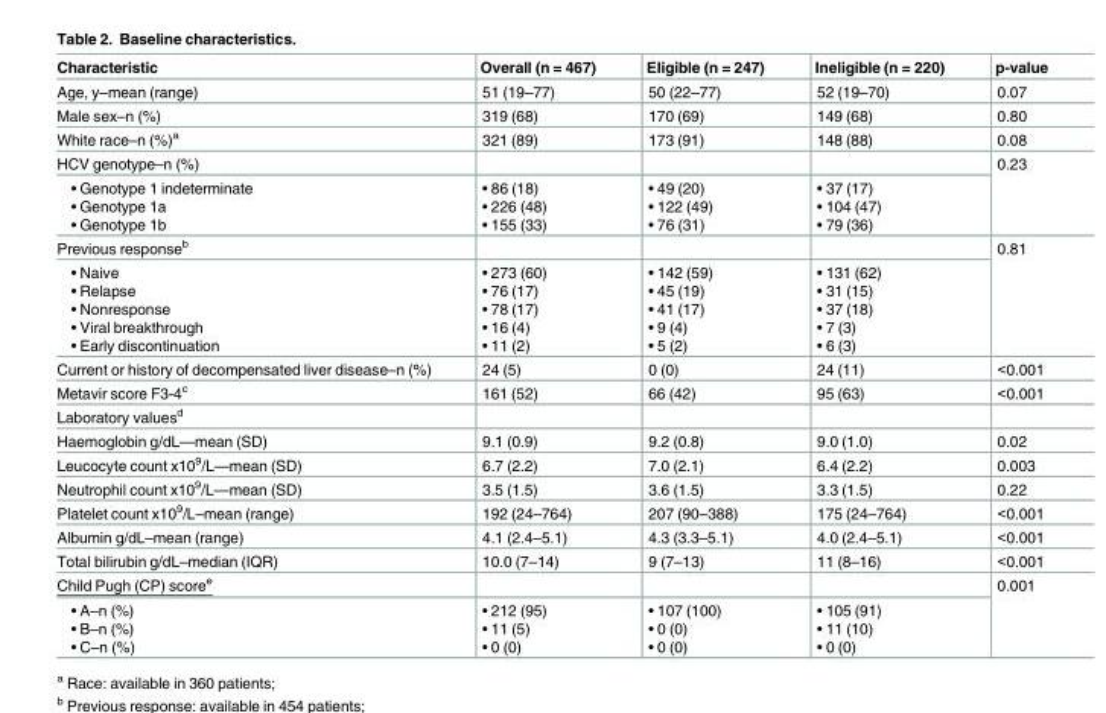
<table><thead><tr><td>Characteristic</td><td>Overall (n = 467)</td><td>Eligible (n = 247)</td><td>Ineligible (n = 220)</td><td>p-value</td></tr></thead><tbody><tr><td>Age, y–mean (range)</td><td>51 (19–77)</td><td>50 (22–77)</td><td>52 (19–70)</td><td>0.07</td></tr><tr><td>Male sex–n (%)</td><td>319 (68)</td><td>170 (69)</td><td>149 (68)</td><td>0.80</td></tr><tr><td>White race–n (%)<sup>a</sup></td><td>321 (89)</td><td>173 (91)</td><td>148 (88)</td><td>0.08</td></tr><tr><td colspan="4">HCV genotype–n (%)</td><td rowspan="2">0.23</td></tr><tr><td>• Genotype 1 indeterminate • Genotype 1a • Genotype 1b</td><td>• 86 (18) • 226 (48) • 155 (33)</td><td>• 49 (20) • 122 (49) • 76 (31)</td><td>• 37 (17) • 104 (47) • 79 (36)</td></tr><tr><td colspan="4">Previous response<sup>b</sup></td><td rowspan="2">0.81</td></tr><tr><td>• Naive • Relapse • Nonresponse • Viral breakthrough • Early discontinuation</td><td>• 273 (60) • 76 (17) • 78 (17) • 16 (4) • 11 (2)</td><td>• 142 (59) • 45 (19) • 41 (17) • 9 (4) • 5 (2)</td><td>• 131 (62) • 31 (15) • 37 (18) • 7 (3) • 6 (3)</td></tr><tr><td>Current or history of decompensated liver disease–n (%)</td><td>24 (5)</td><td>0 (0)</td><td>24 (11)</td><td>&lt;0.001</td></tr><tr><td>Metavir score F3-4<sup>c</sup></td><td>161 (52)</td><td>66 (42)</td><td>95 (63)</td><td>&lt;0.001</td></tr><tr><td colspan="5">Laboratory values<sup>d</sup></td></tr><tr><td>Haemoglobin g/dL—mean (SD)</td><td>9.1 (0.9)</td><td>9.2 (0.8)</td><td>9.0 (1.0)</td><td>0.02</td></tr><tr><td>Leucocyte count x10<sup>9</sup>/L—mean (SD)</td><td>6.7 (2.2)</td><td>7.0 (2.1)</td><td>6.4 (2.2)</td><td>0.003</td></tr><tr><td>Neutrophil count x10<sup>9</sup>/L—mean (SD)</td><td>3.5 (1.5)</td><td>3.6 (1.5)</td><td>3.3 (1.5)</td><td>0.22</td></tr><tr><td>Platelet count x10<sup>9</sup>/L–mean (range)</td><td>192 (24–764)</td><td>207 (90–388)</td><td>175 (24–764)</td><td>&lt;0.001</td></tr><tr><td>Albumin g/dL–mean (range)</td><td>4.1 (2.4–5.1)</td><td>4.3 (3.3–5.1)</td><td>4.0 (2.4–5.1)</td><td>&lt;0.001</td></tr><tr><td>Total bilirubin g/dL–median (IQR)</td><td>10.0 (7–14)</td><td>9 (7–13)</td><td>11 (8–16)</td><td>&lt;0.001</td></tr><tr><td colspan="4">Child Pugh (CP) score<sup>e</sup></td><td rowspan="2">0.001</td></tr><tr><td>• A–n (%) • B–n (%) • C–n (%)</td><td>• 212 (95) • 11 (5) • 0 (0)</td><td>• 107 (100) • 0 (0) • 0 (0)</td><td>• 105 (91) • 11 (10) • 0 (0)</td></tr></tbody></table>